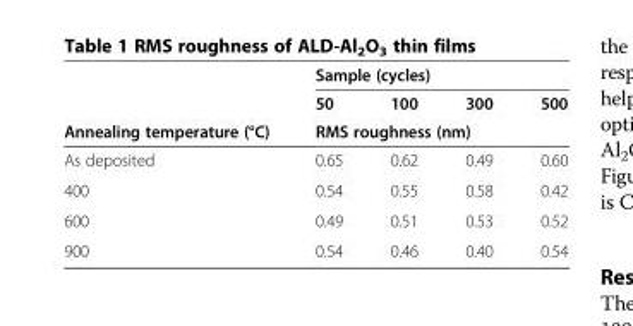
<table><thead><tr><td rowspan="3">Annealing temperature (°C)</td><td colspan="4">Sample (cycles)</td></tr><tr><td>50</td><td>100</td><td>300</td><td>500</td></tr><tr><td colspan="4">RMS roughness (nm)</td></tr></thead><tbody><tr><td>As deposited</td><td>0.65</td><td>0.62</td><td>0.49</td><td>0.60</td></tr><tr><td>400</td><td>0.54</td><td>0.55</td><td>0.58</td><td>0.42</td></tr><tr><td>600</td><td>0.49</td><td>0.51</td><td>0.53</td><td>0.52</td></tr><tr><td>900</td><td>0.54</td><td>0.46</td><td>0.40</td><td>0.54</td></tr></tbody></table>